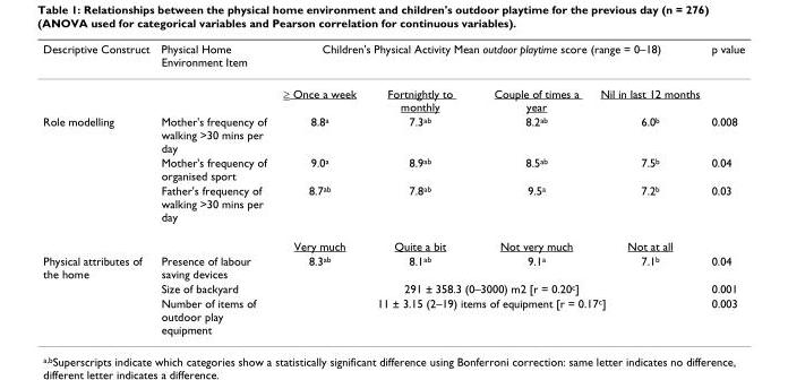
<table><thead><tr><td rowspan="2">Descriptive Construct</td><td rowspan="2">Physical Home Environment Item</td><td colspan="4">Children&#x27;s Physical Activity Mean outdoor playtime score (range = 0–18)</td><td rowspan="2">p value</td></tr><tr><td>≥ Once a week</td><td>Fortnightly to monthly</td><td>Couple of times a year</td><td>Nil in last 12 months</td></tr></thead><tbody><tr><td rowspan="4">Role modelling</td><td>Mother&#x27;s frequency of walking &gt;30 mins per day</td><td>8.8<sup>a</sup></td><td>7.3<sup>ab</sup></td><td>8.2<sup>ab</sup></td><td>6.0<sup>b</sup></td><td>0.008</td></tr><tr><td>Mother&#x27;s frequency of organised sport</td><td>9.0<sup>a</sup></td><td>8.9<sup>ab</sup></td><td>8.5<sup>ab</sup></td><td>7.5<sup>b</sup></td><td>0.04</td></tr><tr><td>Father&#x27;s frequency of walking &gt;30 mins per day</td><td>8.7<sup>ab</sup></td><td>7.8<sup>ab</sup></td><td>9.5<sup>a</sup></td><td>7.2<sup>b</sup></td><td>0.03</td></tr><tr><td></td><td>Very much</td><td>Quite a bit</td><td>Not very much</td><td>Not at all</td><td></td></tr><tr><td rowspan="3">Physical attributes of the home</td><td>Presence of labour saving devices</td><td>8.3<sup>ab</sup></td><td>8.1<sup>ab</sup></td><td>9.1<sup>a</sup></td><td>7.1<sup>b</sup></td><td>0.04</td></tr><tr><td>Size of backyard</td><td colspan="4">291 ± 358.3 (0–3000) m2 [r = 0.20<sup>c</sup>]</td><td>0.001</td></tr><tr><td>Number of items of outdoor play equipment</td><td colspan="4">11 ± 3.15 (2–19) items of equipment [r = 0.17<sup>c</sup>]</td><td>0.003</td></tr></tbody></table>